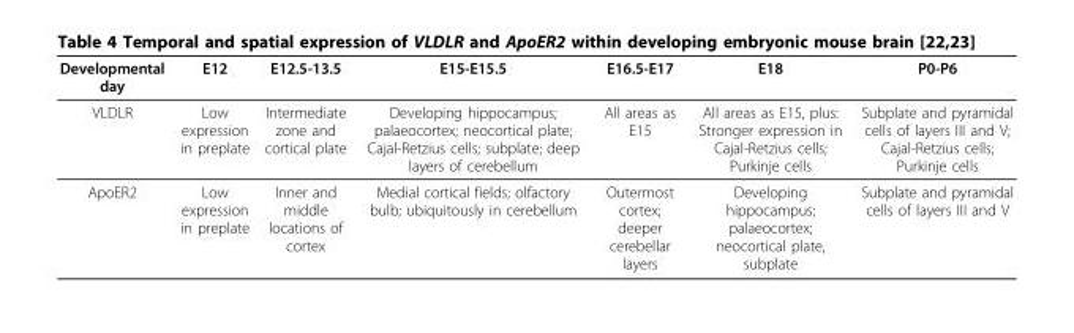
<table><thead><tr><td>Developmental day</td><td>E12</td><td>E12.5-13.5</td><td>E15-E15.5</td><td>E16.5-E17</td><td>E18</td><td>P0-P6</td></tr></thead><tbody><tr><td>VLDLR</td><td>Low expression in preplate</td><td>Intermediate zone and cortical plate</td><td>Developing hippocampus; palaeocortex; neocortical plate; Cajal-Retzius cells; subplate; deep layers of cerebellum</td><td>All areas as E15</td><td>All areas as E15, plus: Stronger expression in Cajal-Retzius cells; Purkinje cells</td><td>Subplate and pyramidal cells of layers III and V; Cajal-Retzius cells; Purkinje cells</td></tr><tr><td>ApoER2</td><td>Low expression in preplate</td><td>Inner and middle locations of cortex</td><td>Medial cortical fields; olfactory bulb; ubiquitously in cerebellum</td><td>Outermost cortex; deeper cerebellar layers</td><td>Developing hippocampus; palaeocortex; neocortical plate, subplate</td><td>Subplate and pyramidal cells of layers III and V</td></tr></tbody></table>